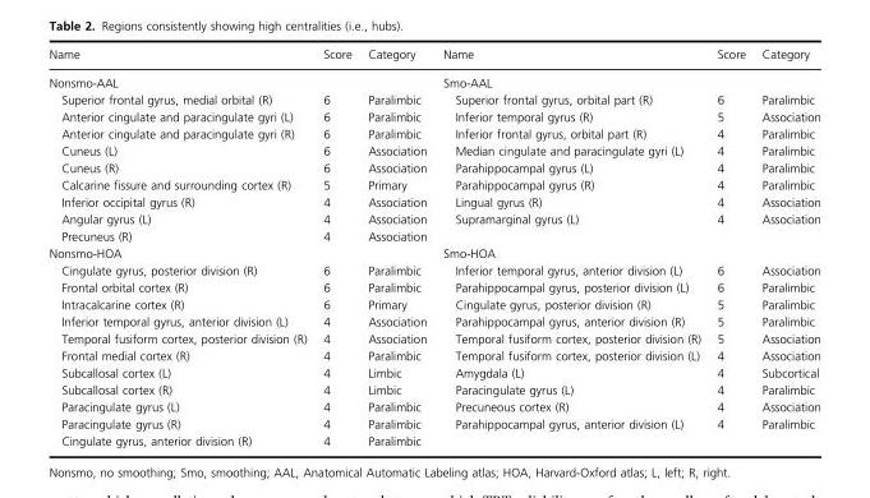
<table><thead><tr><td>Name</td><td>Score</td><td>Category</td><td>Name</td><td>Score</td><td>Category</td></tr></thead><tbody><tr><td colspan="3">Nonsmo-AAL</td><td colspan="3">Smo-AAL</td></tr><tr><td>Superior frontal gyrus, medial orbital (R)</td><td>6</td><td>Paralimbic</td><td>Superior frontal gyrus, orbital part (R)</td><td>6</td><td>Paralimbic</td></tr><tr><td>Anterior cingulate and paracingulate gyri (L)</td><td>6</td><td>Paralimbic</td><td>Inferior temporal gyrus (R)</td><td>5</td><td>Association</td></tr><tr><td>Anterior cingulate and paracingulate gyri (R)</td><td>6</td><td>Paralimbic</td><td>Inferior frontal gyrus, orbital part (R)</td><td>4</td><td>Paralimbic</td></tr><tr><td>Cuneus (L)</td><td>6</td><td>Association</td><td>Median cingulate and paracingulate gyri (L)</td><td>4</td><td>Paralimbic</td></tr><tr><td>Cuneus (R)</td><td>6</td><td>Association</td><td>Parahippocampal gyrus (L)</td><td>4</td><td>Paralimbic</td></tr><tr><td>Calcarine fissure and surrounding cortex (R)</td><td>5</td><td>Primary</td><td>Parahippocampal gyrus (R)</td><td>4</td><td>Paralimbic</td></tr><tr><td>Inferior occipital gyrus (R)</td><td>4</td><td>Association</td><td>Lingual gyrus (R)</td><td>4</td><td>Association</td></tr><tr><td>Angular gyrus (L)</td><td>4</td><td>Association</td><td>Supramarginal gyrus (L)</td><td>4</td><td>Association</td></tr><tr><td>Precuneus (R)</td><td>4</td><td>Association</td><td></td><td></td><td></td></tr><tr><td colspan="3">Nonsmo-HOA</td><td colspan="3">Smo-HOA</td></tr><tr><td>Cingulate gyrus, posterior division (R)</td><td>6</td><td>Paralimbic</td><td>Inferior temporal gyrus, anterior division (L)</td><td>6</td><td>Association</td></tr><tr><td>Frontal orbital cortex (R)</td><td>6</td><td>Paralimbic</td><td>Parahippocampal gyrus, posterior division (L)</td><td>6</td><td>Paralimbic</td></tr><tr><td>Intracalcarine cortex (R)</td><td>6</td><td>Primary</td><td>Cingulate gyrus, posterior division (R)</td><td>5</td><td>Paralimbic</td></tr><tr><td>Inferior temporal gyrus, anterior division (L)</td><td>4</td><td>Association</td><td>Parahippocampal gyrus, anterior division (R)</td><td>5</td><td>Paralimbic</td></tr><tr><td>Temporal fusiform cortex, posterior division (R)</td><td>4</td><td>Association</td><td>Temporal fusiform cortex, posterior division (R)</td><td>5</td><td>Association</td></tr><tr><td>Frontal medial cortex (R)</td><td>4</td><td>Paralimbic</td><td>Temporal fusiform cortex, posterior division (L)</td><td>4</td><td>Association</td></tr><tr><td>Subcallosal cortex (L)</td><td>4</td><td>Limbic</td><td>Amygdala (L)</td><td>4</td><td>Subcortical</td></tr><tr><td>Subcallosal cortex (R)</td><td>4</td><td>Limbic</td><td>Paracingulate gyrus (L)</td><td>4</td><td>Paralimbic</td></tr><tr><td>Paracingulate gyrus (L)</td><td>4</td><td>Paralimbic</td><td>Precuneous cortex (R)</td><td>4</td><td>Association</td></tr><tr><td>Paracingulate gyrus (R)</td><td>4</td><td>Paralimbic</td><td>Parahippocampal gyrus, anterior division (L)</td><td>4</td><td>Paralimbic</td></tr><tr><td>Cingulate gyrus, anterior division (R)</td><td>4</td><td>Paralimbic</td><td></td><td></td><td></td></tr></tbody></table>